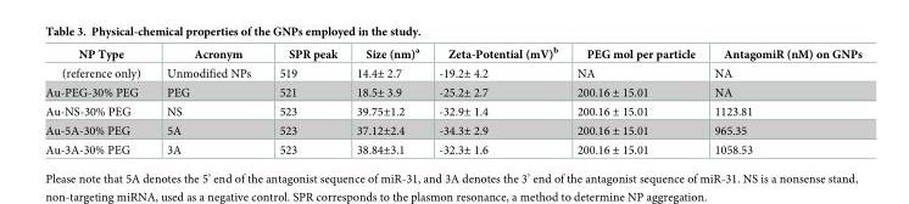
<table><thead><tr><td>NP Type</td><td>Acronym</td><td>SPR peak</td><td>Size (nm)<sup>a</sup></td><td>Zeta-Potential (mV)<sup>b</sup></td><td>PEG mol per particle</td><td>AntagomiR (nM) on GNPs</td></tr></thead><tbody><tr><td>(reference only)</td><td>Unmodified NPs</td><td>519</td><td>14.4± 2.7</td><td>-19.2± 4.2</td><td>NA</td><td>NA</td></tr><tr><td>Au-PEG-30% PEG</td><td>PEG</td><td>521</td><td>18.5± 3.9</td><td>-25.2± 2.7</td><td>200.16 ± 15.01</td><td>NA</td></tr><tr><td>Au-NS-30% PEG</td><td>NS</td><td>523</td><td>39.75±1.2</td><td>-32.9± 1.4</td><td>200.16 ± 15.01</td><td>1123.81</td></tr><tr><td>Au-5A-30% PEG</td><td>5A</td><td>523</td><td>37.12±2.4</td><td>-34.3± 2.9</td><td>200.16 ± 15.01</td><td>965.35</td></tr><tr><td>Au-3A-30% PEG</td><td>3A</td><td>523</td><td>38.84±3.1</td><td>-32.3± 1.6</td><td>200.16 ± 15.01</td><td>1058.53</td></tr></tbody></table>